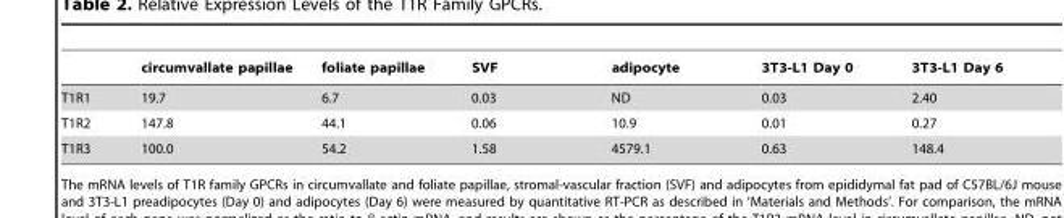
<table><thead><tr><td></td><td>circumvallate papillae</td><td>foliate papillae</td><td>SVF</td><td>adipocyte</td><td>3T3-L1 Day 0</td><td>3T3-L1 Day 6</td></tr></thead><tbody><tr><td>T1R1</td><td>19.7</td><td>6.7</td><td>0.03</td><td>ND</td><td>0.03</td><td>2.40</td></tr><tr><td>T1R2</td><td>147.8</td><td>44.1</td><td>0.06</td><td>10.9</td><td>0.01</td><td>0.27</td></tr><tr><td>T1R3</td><td>100.0</td><td>54.2</td><td>1.58</td><td>4579.1</td><td>0.63</td><td>148.4</td></tr></tbody></table>